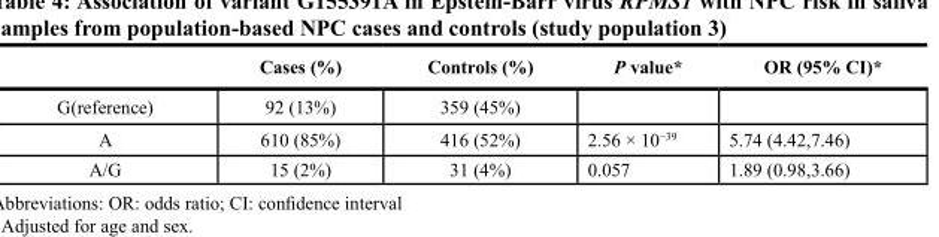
<table><thead><tr><td></td><td>Cases (%)</td><td>Controls (%)</td><td>P value*</td><td>OR (95% CI)*</td></tr></thead><tbody><tr><td>G(reference)</td><td>92 (13%)</td><td>359 (45%)</td><td></td><td></td></tr><tr><td>A</td><td>610 (85%)</td><td>416 (52%)</td><td>2.56 × 10<sup>−39</sup></td><td>5.74 (4.42,7.46)</td></tr><tr><td>A/G</td><td>15 (2%)</td><td>31 (4%)</td><td>0.057</td><td>1.89 (0.98,3.66)</td></tr></tbody></table>